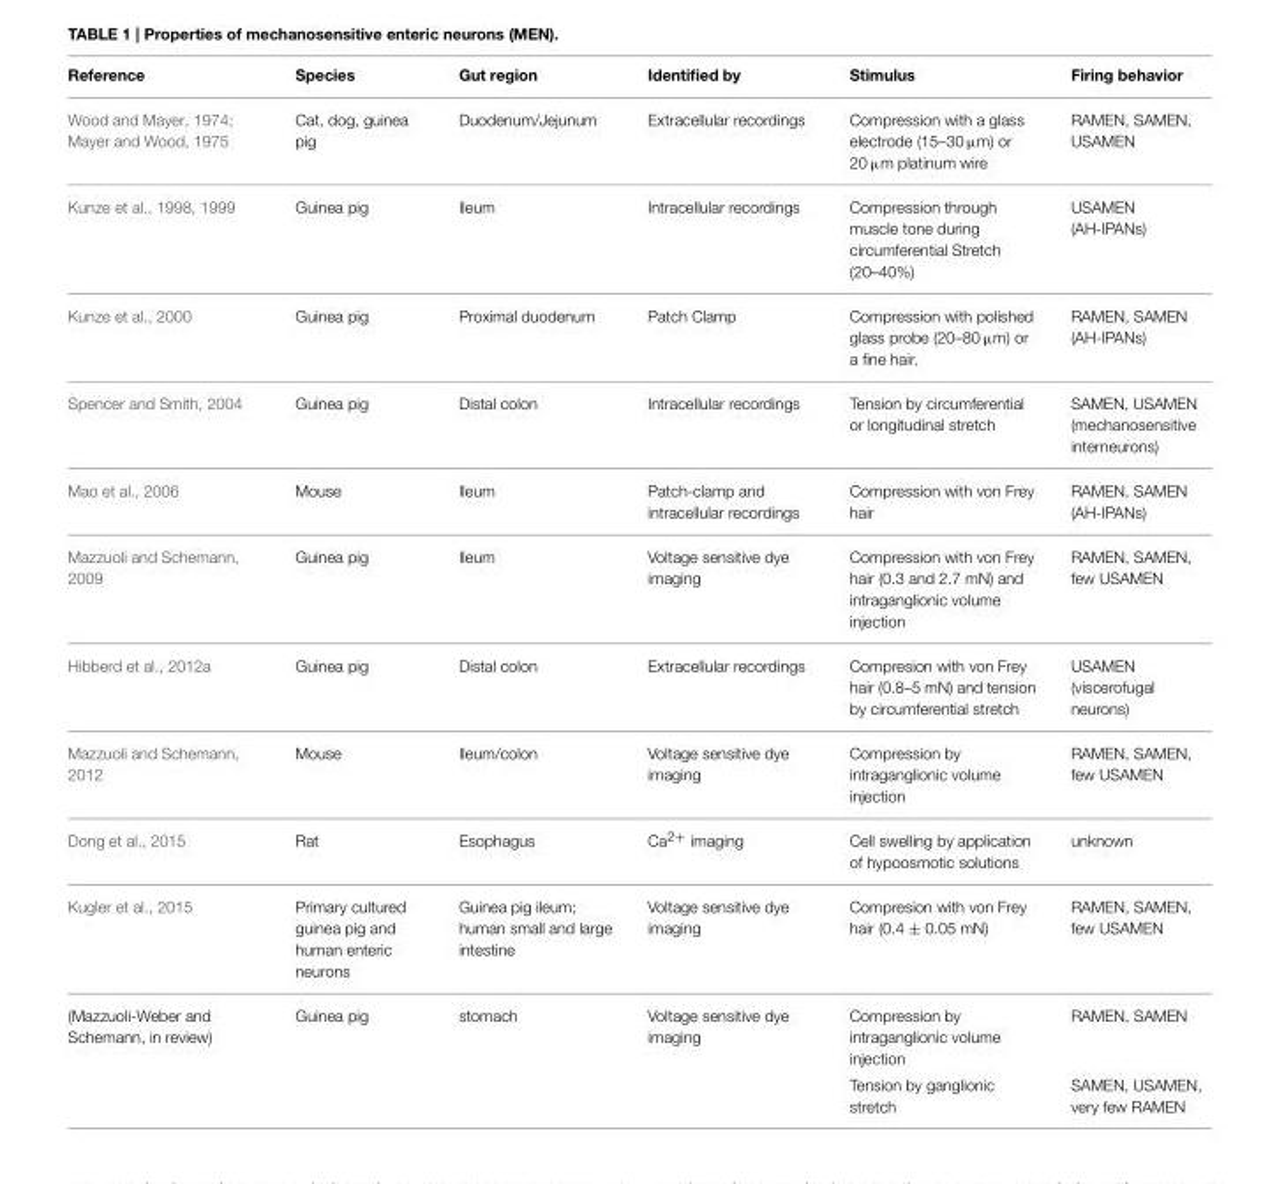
<table><thead><tr><td>Reference</td><td>Species</td><td>Gut region</td><td>Identified by</td><td>Stimulus</td><td>Firing behavior</td></tr></thead><tbody><tr><td>Wood and Mayer, 1974; Mayer and Wood, 1975</td><td>Cat, dog, guinea pig</td><td>Duodenum/Jejunum</td><td>Extracellular recordings</td><td>Compression with a glass electrode (15–30 µm) or 20 µm platinum wire</td><td>RAMEN, SAMEN, USAMEN</td></tr><tr><td>Kunze et al., 1998, 1999</td><td>Guinea pig</td><td>Ileum</td><td>Intracellular recordings</td><td>Compression through muscle tone during circumferential Stretch (20–40%)</td><td>USAMEN (AH-IPANs)</td></tr><tr><td>Kunze et al., 2000</td><td>Guinea pig</td><td>Proximal duodenum</td><td>Patch Clamp</td><td>Compression with polished glass probe (20–80 µm) or a fine hair.</td><td>RAMEN, SAMEN (AH-IPANs)</td></tr><tr><td>Spencer and Smith, 2004</td><td>Guinea pig</td><td>Distal colon</td><td>Intracellular recordings</td><td>Tension by circumferential or longitudinal stretch</td><td>SAMEN, USAMEN (mechanosensitive interneurons)</td></tr><tr><td>Mao et al., 2006</td><td>Mouse</td><td>Ileum</td><td>Patch-clamp and intracellular recordings</td><td>Compression with von Frey hair</td><td>RAMEN, SAMEN (AH-IPANs)</td></tr><tr><td>Mazzuoli and Schemann, 2009</td><td>Guinea pig</td><td>Ileum</td><td>Voltage sensitive dye imaging</td><td>Compression with von Frey hair (0.3 and 2.7 mN) and intraganglionic volume injection</td><td>RAMEN, SAMEN, few USAMEN</td></tr><tr><td>Hibberd et al., 2012a</td><td>Guinea pig</td><td>Distal colon</td><td>Extracellular recordings</td><td>Compresion with von Frey hair (0.8–5 mN) and tension by circumferential stretch</td><td>USAMEN (viscerofugal neurons)</td></tr><tr><td>Mazzuoli and Schemann, 2012</td><td>Mouse</td><td>Ileum/colon</td><td>Voltage sensitive dye imaging</td><td>Compression by intraganglionic volume injection</td><td>RAMEN, SAMEN, few USAMEN</td></tr><tr><td>Dong et al., 2015</td><td>Rat</td><td>Esophagus</td><td>Ca<sup>2+</sup> imaging</td><td>Cell swelling by application of hypoosmotic solutions</td><td>unknown</td></tr><tr><td>Kugler et al., 2015</td><td>Primary cultured guinea pig and human enteric neurons</td><td>Guinea pig ileum; human small and large intestine</td><td>Voltage sensitive dye imaging</td><td>Compresion with von Frey hair (0.4 ± 0.05 mN)</td><td>RAMEN, SAMEN, few USAMEN</td></tr><tr><td rowspan="2">(Mazzuoli-Weber and Schemann, in review)</td><td>Guinea pig</td><td>stomach</td><td>Voltage sensitive dye imaging</td><td>Compression by intraganglionic volume injection</td><td>RAMEN, SAMEN</td></tr><tr><td></td><td></td><td></td><td>Tension by ganglionic stretch</td><td>SAMEN, USAMEN, very few RAMEN</td></tr></tbody></table>